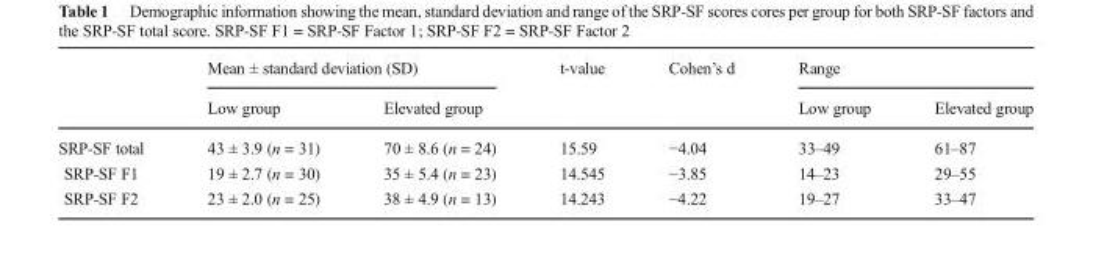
<table><thead><tr><td rowspan="2"></td><td colspan="2">Mean ± standard deviation (SD)</td><td rowspan="2">t-value</td><td rowspan="2">Cohen’s d</td><td colspan="2">Range</td></tr><tr><td>Low group</td><td>Elevated group</td><td>Low group</td><td>Elevated group</td></tr></thead><tbody><tr><td>SRP-SF total</td><td>43 ± 3.9 (n = 31)</td><td>70 ± 8.6 (n = 24)</td><td>15.59</td><td>−4.04</td><td>33–49</td><td>61–87</td></tr><tr><td>SRP-SF F1</td><td>19 ± 2.7 (n = 30)</td><td>35 ± 5.4 (n = 23)</td><td>14.545</td><td>−3.85</td><td>14–23</td><td>29–55</td></tr><tr><td>SRP-SF F2</td><td>23 ± 2.0 (n = 25)</td><td>38 ± 4.9 (n = 13)</td><td>14.243</td><td>−4.22</td><td>19–27</td><td>33–47</td></tr></tbody></table>